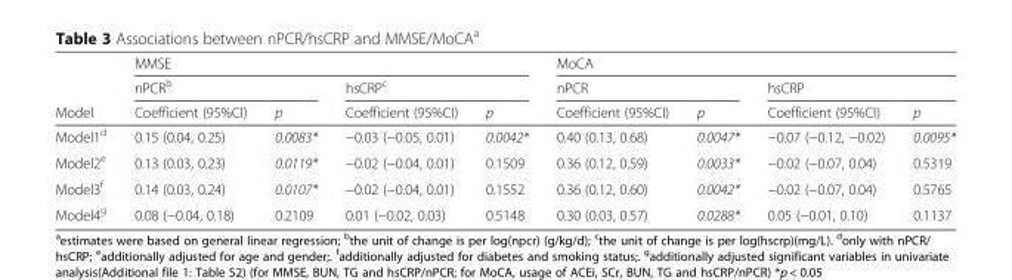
<table><thead><tr><td rowspan="3">Model</td><td colspan="4">MMSE</td><td colspan="4">MoCA</td></tr><tr><td colspan="2">nPCR<sup>b</sup></td><td colspan="2">hsCRP<sup>c</sup></td><td colspan="2">nPCR</td><td colspan="2">hsCRP</td></tr><tr><td>Coefficient (95%CI)</td><td>p</td><td>Coefficient (95%CI)</td><td>p</td><td>Coefficient (95%CI)</td><td>p</td><td>Coefficient (95%CI)</td><td>p</td></tr></thead><tbody><tr><td>Model1<sup>d</sup></td><td>0.15 (0.04, 0.25)</td><td>0.0083*</td><td>−0.03 (−0.05, 0.01)</td><td>0.0042*</td><td>0.40 (0.13, 0.68)</td><td>0.0047*</td><td>−0.07 (−0.12, −0.02)</td><td>0.0095*</td></tr><tr><td>Model2<sup>e</sup></td><td>0.13 (0.03, 0.23)</td><td>0.0119*</td><td>−0.02 (−0.04, 0.01)</td><td>0.1509</td><td>0.36 (0.12, 0.59)</td><td>0.0033*</td><td>−0.02 (−0.07, 0.04)</td><td>0.5319</td></tr><tr><td>Model3<sup>f</sup></td><td>0.14 (0.03, 0.24)</td><td>0.0107*</td><td>−0.02 (−0.04, 0.01)</td><td>0.1552</td><td>0.36 (0.12, 0.60)</td><td>0.0042*</td><td>−0.02 (−0.07, 0.04)</td><td>0.5765</td></tr><tr><td>Model4<sup>g</sup></td><td>0.08 (−0.04, 0.18)</td><td>0.2109</td><td>0.01 (−0.02, 0.03)</td><td>0.5148</td><td>0.30 (0.03, 0.57)</td><td>0.0288*</td><td>0.05 (−0.01, 0.10)</td><td>0.1137</td></tr></tbody></table>